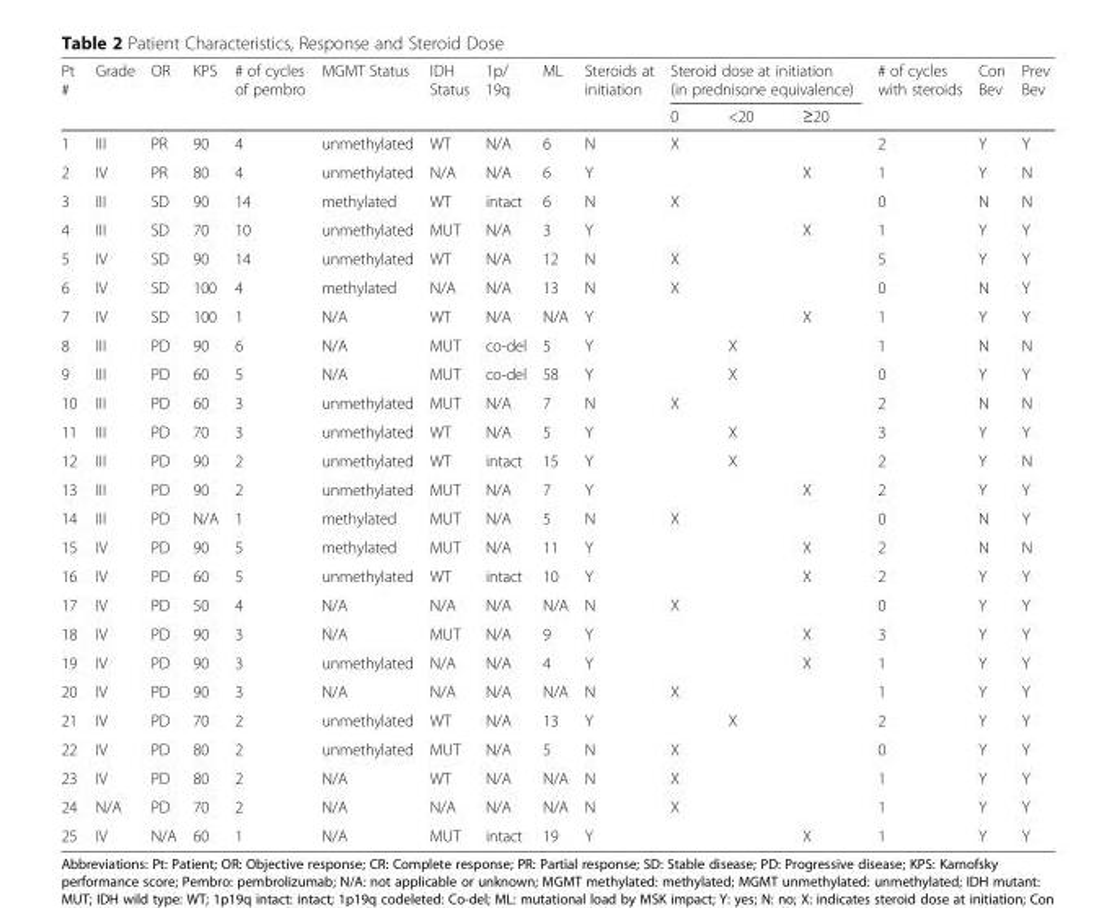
<table><thead><tr><td rowspan="2">Pt #</td><td rowspan="2">Grade</td><td rowspan="2">OR</td><td rowspan="2">KPS</td><td rowspan="2"># of cycles of pembro</td><td rowspan="2">MGMT Status</td><td rowspan="2">IDH Status</td><td rowspan="2">1p/ 19q</td><td rowspan="2">ML</td><td rowspan="2">Steroids at initiation</td><td colspan="3">Steroid dose at initiation (in prednisone equivalence)</td><td rowspan="2"># of cycles with steroids</td><td rowspan="2">Con Bev</td><td rowspan="2">Prev Bev</td></tr><tr><td>0</td><td>&lt;20</td><td>≥20</td></tr></thead><tbody><tr><td>1</td><td>III</td><td>PR</td><td>90</td><td>4</td><td>unmethylated</td><td>WT</td><td>N/A</td><td>6</td><td>N</td><td>X</td><td></td><td></td><td>2</td><td>Y</td><td>Y</td></tr><tr><td>2</td><td>IV</td><td>PR</td><td>80</td><td>4</td><td>unmethylated</td><td>N/A</td><td>N/A</td><td>6</td><td>Y</td><td></td><td></td><td>X</td><td>1</td><td>Y</td><td>N</td></tr><tr><td>3</td><td>III</td><td>SD</td><td>90</td><td>14</td><td>methylated</td><td>WT</td><td>intact</td><td>6</td><td>N</td><td>X</td><td></td><td></td><td>0</td><td>N</td><td>N</td></tr><tr><td>4</td><td>III</td><td>SD</td><td>70</td><td>10</td><td>unmethylated</td><td>MUT</td><td>N/A</td><td>3</td><td>Y</td><td></td><td></td><td>X</td><td>1</td><td>Y</td><td>Y</td></tr><tr><td>5</td><td>IV</td><td>SD</td><td>90</td><td>14</td><td>unmethylated</td><td>WT</td><td>N/A</td><td>12</td><td>N</td><td>X</td><td></td><td></td><td>5</td><td>Y</td><td>Y</td></tr><tr><td>6</td><td>IV</td><td>SD</td><td>100</td><td>4</td><td>methylated</td><td>N/A</td><td>N/A</td><td>13</td><td>N</td><td>X</td><td></td><td></td><td>0</td><td>N</td><td>Y</td></tr><tr><td>7</td><td>IV</td><td>SD</td><td>100</td><td>1</td><td>N/A</td><td>WT</td><td>N/A</td><td>N/A</td><td>Y</td><td></td><td></td><td>X</td><td>1</td><td>Y</td><td>Y</td></tr><tr><td>8</td><td>III</td><td>PD</td><td>90</td><td>6</td><td>N/A</td><td>MUT</td><td>co-del</td><td>5</td><td>Y</td><td></td><td>X</td><td></td><td>1</td><td>N</td><td>N</td></tr><tr><td>9</td><td>III</td><td>PD</td><td>60</td><td>5</td><td>N/A</td><td>MUT</td><td>co-del</td><td>58</td><td>Y</td><td></td><td>X</td><td></td><td>0</td><td>Y</td><td>Y</td></tr><tr><td>10</td><td>III</td><td>PD</td><td>60</td><td>3</td><td>unmethylated</td><td>MUT</td><td>N/A</td><td>7</td><td>N</td><td>X</td><td></td><td></td><td>2</td><td>N</td><td>N</td></tr><tr><td>11</td><td>III</td><td>PD</td><td>70</td><td>3</td><td>unmethylated</td><td>WT</td><td>N/A</td><td>5</td><td>Y</td><td></td><td>X</td><td></td><td>3</td><td>Y</td><td>Y</td></tr><tr><td>12</td><td>III</td><td>PD</td><td>90</td><td>2</td><td>unmethylated</td><td>WT</td><td>intact</td><td>15</td><td>Y</td><td></td><td>X</td><td></td><td>2</td><td>Y</td><td>N</td></tr><tr><td>13</td><td>III</td><td>PD</td><td>90</td><td>2</td><td>unmethylated</td><td>MUT</td><td>N/A</td><td>7</td><td>Y</td><td></td><td></td><td>X</td><td>2</td><td>Y</td><td>Y</td></tr><tr><td>14</td><td>III</td><td>PD</td><td>N/A</td><td>1</td><td>methylated</td><td>MUT</td><td>N/A</td><td>5</td><td>N</td><td>X</td><td></td><td></td><td>0</td><td>N</td><td>Y</td></tr><tr><td>15</td><td>IV</td><td>PD</td><td>90</td><td>5</td><td>methylated</td><td>MUT</td><td>N/A</td><td>11</td><td>Y</td><td></td><td></td><td>X</td><td>2</td><td>N</td><td>N</td></tr><tr><td>16</td><td>IV</td><td>PD</td><td>60</td><td>5</td><td>unmethylated</td><td>WT</td><td>intact</td><td>10</td><td>Y</td><td></td><td></td><td>X</td><td>2</td><td>Y</td><td>Y</td></tr><tr><td>17</td><td>IV</td><td>PD</td><td>50</td><td>4</td><td>N/A</td><td>N/A</td><td>N/A</td><td>N/A</td><td>N</td><td>X</td><td></td><td></td><td>0</td><td>Y</td><td>Y</td></tr><tr><td>18</td><td>IV</td><td>PD</td><td>90</td><td>3</td><td>N/A</td><td>MUT</td><td>N/A</td><td>9</td><td>Y</td><td></td><td></td><td>X</td><td>3</td><td>Y</td><td>Y</td></tr><tr><td>19</td><td>IV</td><td>PD</td><td>90</td><td>3</td><td>unmethylated</td><td>N/A</td><td>N/A</td><td>4</td><td>Y</td><td></td><td></td><td>X</td><td>1</td><td>Y</td><td>Y</td></tr><tr><td>20</td><td>IV</td><td>PD</td><td>90</td><td>3</td><td>N/A</td><td>N/A</td><td>N/A</td><td>N/A</td><td>N</td><td>X</td><td></td><td></td><td>1</td><td>Y</td><td>Y</td></tr><tr><td>21</td><td>IV</td><td>PD</td><td>70</td><td>2</td><td>unmethylated</td><td>WT</td><td>N/A</td><td>13</td><td>Y</td><td></td><td>X</td><td></td><td>2</td><td>Y</td><td>Y</td></tr><tr><td>22</td><td>IV</td><td>PD</td><td>80</td><td>2</td><td>unmethylated</td><td>MUT</td><td>N/A</td><td>5</td><td>N</td><td>X</td><td></td><td></td><td>0</td><td>Y</td><td>Y</td></tr><tr><td>23</td><td>IV</td><td>PD</td><td>80</td><td>2</td><td>N/A</td><td>WT</td><td>N/A</td><td>N/A</td><td>N</td><td>X</td><td></td><td></td><td>1</td><td>Y</td><td>Y</td></tr><tr><td>24</td><td>N/A</td><td>PD</td><td>70</td><td>2</td><td>N/A</td><td>N/A</td><td>N/A</td><td>N/A</td><td>N</td><td>X</td><td></td><td></td><td>1</td><td>Y</td><td>Y</td></tr><tr><td>25</td><td>IV</td><td>N/A</td><td>60</td><td>1</td><td>N/A</td><td>MUT</td><td>intact</td><td>19</td><td>Y</td><td></td><td></td><td>X</td><td>1</td><td>Y</td><td>Y</td></tr></tbody></table>